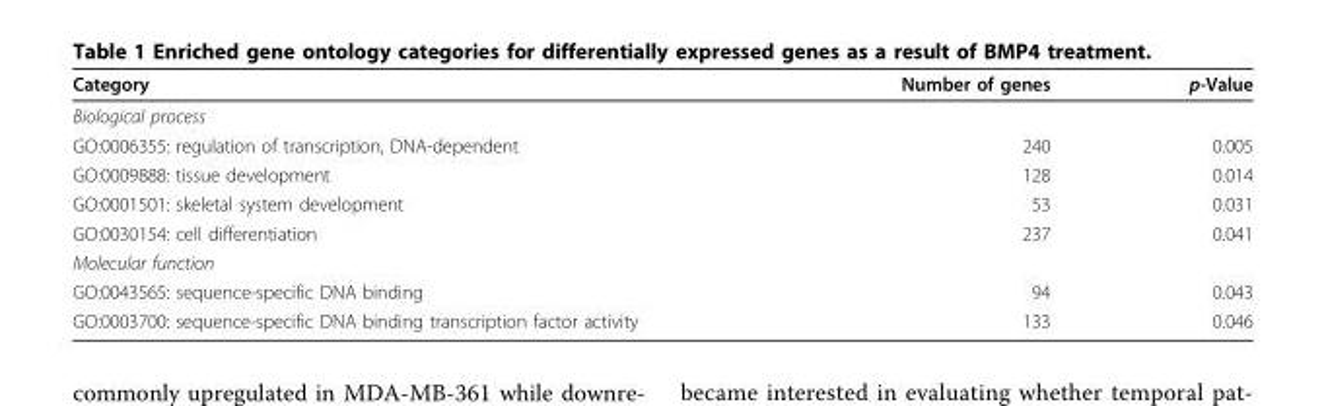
<table><thead><tr><td>Category</td><td>Number of genes</td><td>p-Value</td></tr></thead><tbody><tr><td colspan="3">Biological process</td></tr><tr><td>GO:0006355: regulation of transcription, DNA-dependent</td><td>240</td><td>0.005</td></tr><tr><td>GO:0009888: tissue development</td><td>128</td><td>0.014</td></tr><tr><td>GO:0001501: skeletal system development</td><td>53</td><td>0.031</td></tr><tr><td>GO:0030154: cell differentiation</td><td>237</td><td>0.041</td></tr><tr><td colspan="3">Molecular function</td></tr><tr><td>GO:0043565: sequence-specific DNA binding</td><td>94</td><td>0.043</td></tr><tr><td>GO:0003700: sequence-specific DNA binding transcription factor activity</td><td>133</td><td>0.046</td></tr></tbody></table>